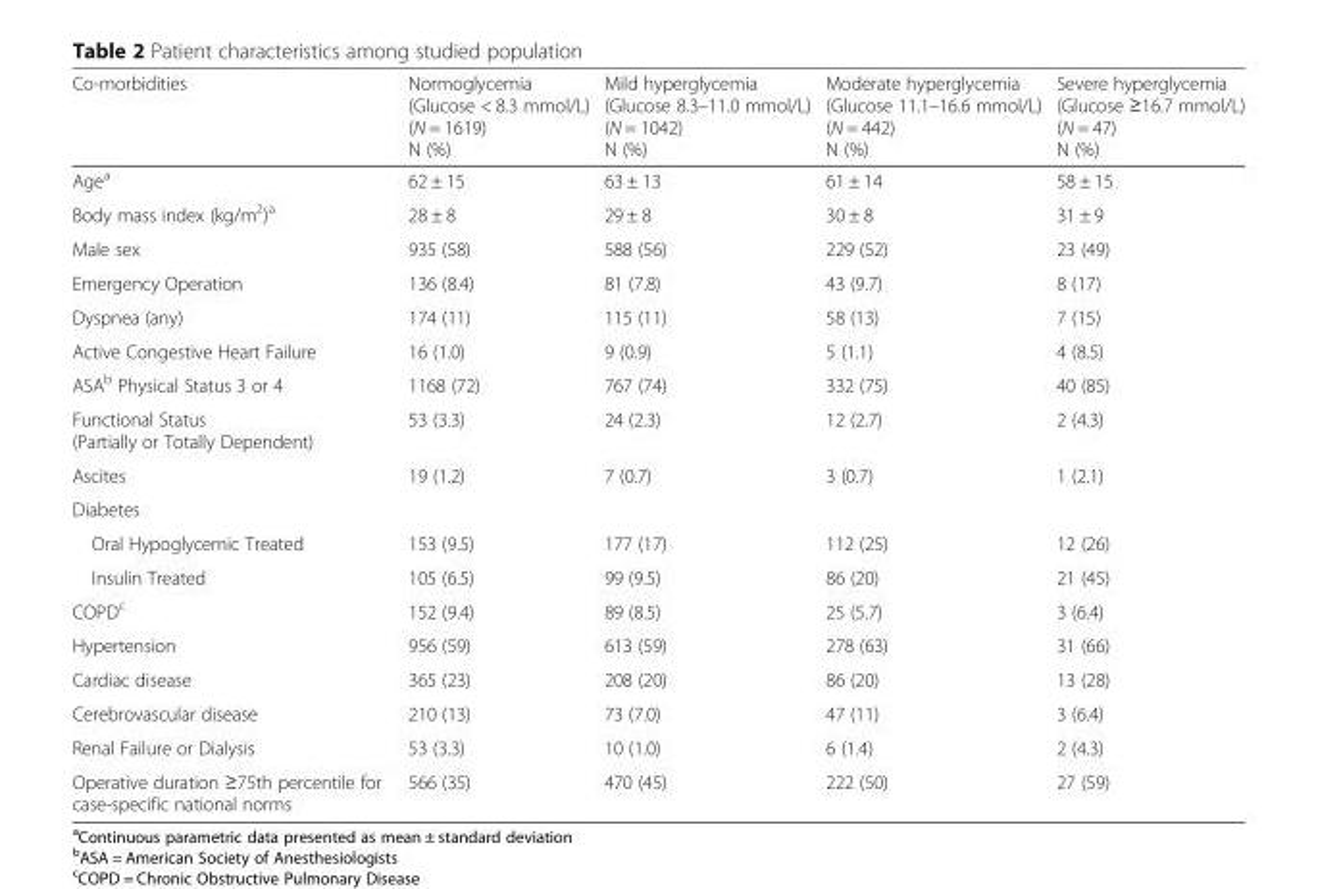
<table><thead><tr><td>Co-morbidities</td><td>Normoglycemia (Glucose &lt; 8.3 mmol/L) (N = 1619) N (%)</td><td>Mild hyperglycemia (Glucose 8.3–11.0 mmol/L) (N = 1042) N (%)</td><td>Moderate hyperglycemia (Glucose 11.1–16.6 mmol/L) (N = 442) N (%)</td><td>Severe hyperglycemia (Glucose ≥16.7 mmol/L) (N = 47) N (%)</td></tr></thead><tbody><tr><td>Age<sup>a</sup></td><td>62 ± 15</td><td>63 ± 13</td><td>61 ± 14</td><td>58 ± 15</td></tr><tr><td>Body mass index (kg/m<sup>2</sup>)<sup>a</sup></td><td>28 ± 8</td><td>29 ± 8</td><td>30 ± 8</td><td>31 ± 9</td></tr><tr><td>Male sex</td><td>935 (58)</td><td>588 (56)</td><td>229 (52)</td><td>23 (49)</td></tr><tr><td>Emergency Operation</td><td>136 (8.4)</td><td>81 (7.8)</td><td>43 (9.7)</td><td>8 (17)</td></tr><tr><td>Dyspnea (any)</td><td>174 (11)</td><td>115 (11)</td><td>58 (13)</td><td>7 (15)</td></tr><tr><td>Active Congestive Heart Failure</td><td>16 (1.0)</td><td>9 (0.9)</td><td>5 (1.1)</td><td>4 (8.5)</td></tr><tr><td>ASA<sup>b</sup> Physical Status 3 or 4</td><td>1168 (72)</td><td>767 (74)</td><td>332 (75)</td><td>40 (85)</td></tr><tr><td>Functional Status (Partially or Totally Dependent)</td><td>53 (3.3)</td><td>24 (2.3)</td><td>12 (2.7)</td><td>2 (4.3)</td></tr><tr><td>Ascites</td><td>19 (1.2)</td><td>7 (0.7)</td><td>3 (0.7)</td><td>1 (2.1)</td></tr><tr><td colspan="5">Diabetes</td></tr><tr><td>Oral Hypoglycemic Treated</td><td>153 (9.5)</td><td>177 (17)</td><td>112 (25)</td><td>12 (26)</td></tr><tr><td>Insulin Treated</td><td>105 (6.5)</td><td>99 (9.5)</td><td>86 (20)</td><td>21 (45)</td></tr><tr><td>COPD<sup>c</sup></td><td>152 (9.4)</td><td>89 (8.5)</td><td>25 (5.7)</td><td>3 (6.4)</td></tr><tr><td>Hypertension</td><td>956 (59)</td><td>613 (59)</td><td>278 (63)</td><td>31 (66)</td></tr><tr><td>Cardiac disease</td><td>365 (23)</td><td>208 (20)</td><td>86 (20)</td><td>13 (28)</td></tr><tr><td>Cerebrovascular disease</td><td>210 (13)</td><td>73 (7.0)</td><td>47 (11)</td><td>3 (6.4)</td></tr><tr><td>Renal Failure or Dialysis</td><td>53 (3.3)</td><td>10 (1.0)</td><td>6 (1.4)</td><td>2 (4.3)</td></tr><tr><td>Operative duration ≥75th percentile for case-specific national norms</td><td>566 (35)</td><td>470 (45)</td><td>222 (50)</td><td>27 (59)</td></tr></tbody></table>